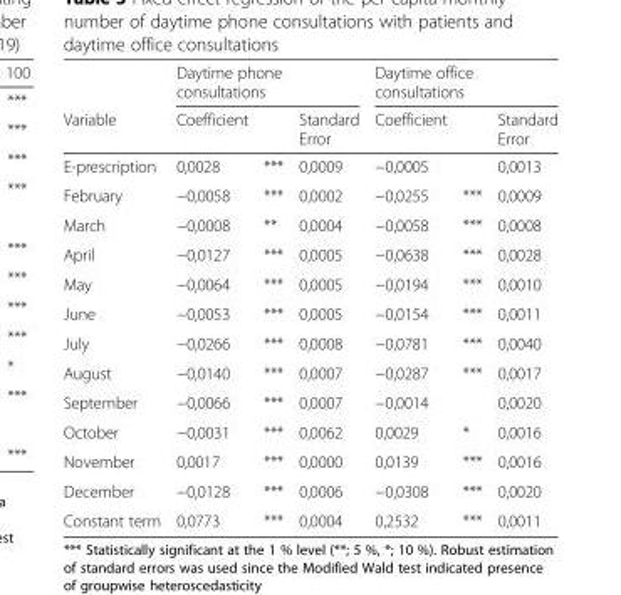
<table><thead><tr><td rowspan="2">Variable</td><td colspan="3">Daytime phone consultations</td><td colspan="3">Daytime office consultations</td></tr><tr><td>Coefficient</td><td></td><td>Standard Error</td><td>Coefficient</td><td></td><td>Standard Error</td></tr></thead><tbody><tr><td>E-prescription</td><td>0,0028</td><td>***</td><td>0,0009</td><td>−0,0005</td><td></td><td>0,0013</td></tr><tr><td>February</td><td>−0,0058</td><td>***</td><td>0,0002</td><td>−0,0255</td><td>***</td><td>0,0009</td></tr><tr><td>March</td><td>−0,0008</td><td>**</td><td>0,0004</td><td>−0,0058</td><td>***</td><td>0,0008</td></tr><tr><td>April</td><td>−0,0127</td><td>***</td><td>0,0005</td><td>−0,0638</td><td>***</td><td>0,0028</td></tr><tr><td>May</td><td>−0,0064</td><td>***</td><td>0,0005</td><td>−0,0194</td><td>***</td><td>0,0010</td></tr><tr><td>June</td><td>−0,0053</td><td>***</td><td>0,0005</td><td>−0,0154</td><td>***</td><td>0,0011</td></tr><tr><td>July</td><td>−0,0266</td><td>***</td><td>0,0008</td><td>−0,0781</td><td>***</td><td>0,0040</td></tr><tr><td>August</td><td>−0,0140</td><td>***</td><td>0,0007</td><td>−0,0287</td><td>***</td><td>0,0017</td></tr><tr><td>September</td><td>−0,0066</td><td>***</td><td>0,0007</td><td>−0,0014</td><td></td><td>0,0020</td></tr><tr><td>October</td><td>−0,0031</td><td>***</td><td>0,0062</td><td>0,0029</td><td>*</td><td>0,0016</td></tr><tr><td>November</td><td>0,0017</td><td>***</td><td>0,0000</td><td>0,0139</td><td>***</td><td>0,0016</td></tr><tr><td>December</td><td>−0,0128</td><td>***</td><td>0,0006</td><td>−0,0308</td><td>***</td><td>0,0020</td></tr><tr><td>Constant term</td><td>0,0773</td><td>***</td><td>0,0004</td><td>0,2532</td><td>***</td><td>0,0011</td></tr></tbody></table>